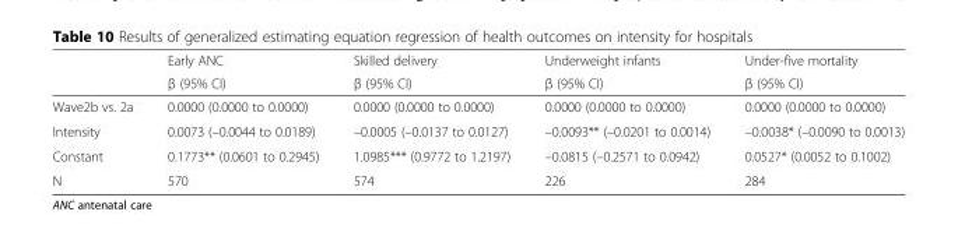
<table><thead><tr><td rowspan="2"></td><td rowspan="2">Early ANC β (95% CI)</td><td rowspan="2">Skilled delivery β (95% CI)</td><td rowspan="2">Underweight infants β (95% CI)</td><td rowspan="2">Under-five mortality β (95% CI)</td></tr><tr></tr></thead><tbody><tr><td>Wave2b vs. 2a</td><td>0.0000 (0.0000 to 0.0000)</td><td>0.0000 (0.0000 to 0.0000)</td><td>0.0000 (0.0000 to 0.0000)</td><td>0.0000 (0.0000 to 0.0000)</td></tr><tr><td>Intensity</td><td>0.0073 (–0.0044 to 0.0189)</td><td>–0.0005 (–0.0137 to 0.0127)</td><td>–0.0093** (–0.0201 to 0.0014)</td><td>–0.0038* (–0.0090 to 0.0013)</td></tr><tr><td>Constant</td><td>0.1773** (0.0601 to 0.2945)</td><td>1.0985*** (0.9772 to 1.2197)</td><td>–0.0815 (–0.2571 to 0.0942)</td><td>0.0527* (0.0052 to 0.1002)</td></tr><tr><td>N</td><td>570</td><td>574</td><td>226</td><td>284</td></tr></tbody></table>